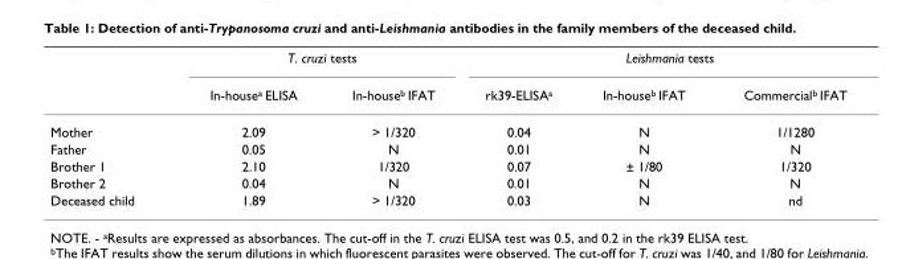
<table><thead><tr><td rowspan="2"></td><td colspan="2">T. cruzi tests</td><td colspan="3">Leishmania tests</td></tr><tr><td>In-house<sup>a</sup> ELISA</td><td>In-house<sup>b</sup> IFAT</td><td>rk39-ELISA<sup>a</sup></td><td>In-house<sup>b</sup> IFAT</td><td>Commercial<sup>b</sup> IFAT</td></tr></thead><tbody><tr><td>Mother</td><td>2.09</td><td>&gt; 1/320</td><td>0.04</td><td>N</td><td>1/1280</td></tr><tr><td>Father</td><td>0.05</td><td>N</td><td>0.01</td><td>N</td><td>N</td></tr><tr><td>Brother 1</td><td>2.10</td><td>1/320</td><td>0.07</td><td>± 1/80</td><td>1/320</td></tr><tr><td>Brother 2</td><td>0.04</td><td>N</td><td>0.01</td><td>N</td><td>N</td></tr><tr><td>Deceased child</td><td>1.89</td><td>&gt; 1/320</td><td>0.03</td><td>N</td><td>nd</td></tr></tbody></table>